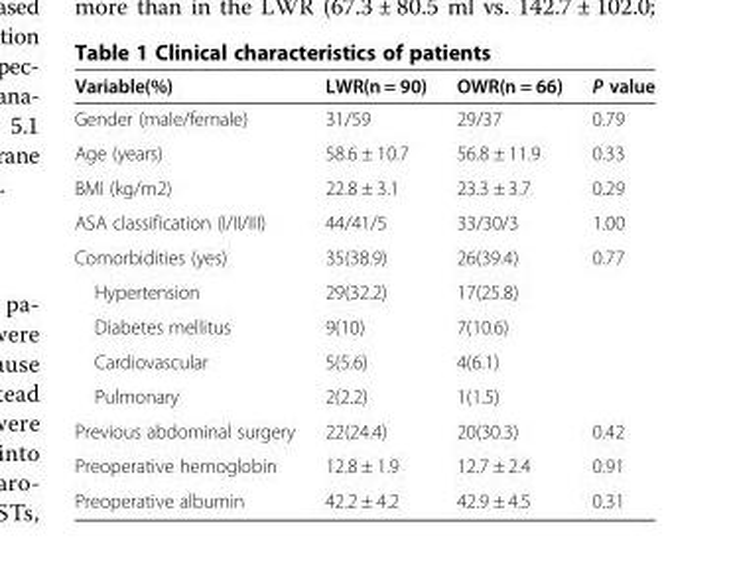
<table><thead><tr><td>Variable(%)</td><td>LWR(n = 90)</td><td>OWR(n = 66)</td><td>P value</td></tr></thead><tbody><tr><td>Gender (male/female)</td><td>31/59</td><td>29/37</td><td>0.79</td></tr><tr><td>Age (years)</td><td>58.6 ± 10.7</td><td>56.8 ± 11.9</td><td>0.33</td></tr><tr><td>BMI (kg/m2)</td><td>22.8 ± 3.1</td><td>23.3 ± 3.7</td><td>0.29</td></tr><tr><td>ASA classification (I/II/III)</td><td>44/41/5</td><td>33/30/3</td><td>1.00</td></tr><tr><td>Comorbidities (yes)</td><td>35(38.9)</td><td>26(39.4)</td><td>0.77</td></tr><tr><td>Hypertension</td><td>29(32.2)</td><td>17(25.8)</td><td></td></tr><tr><td>Diabetes mellitus</td><td>9(10)</td><td>7(10.6)</td><td></td></tr><tr><td>Cardiovascular</td><td>5(5.6)</td><td>4(6.1)</td><td></td></tr><tr><td>Pulmonary</td><td>2(2.2)</td><td>1(1.5)</td><td></td></tr><tr><td>Previous abdominal surgery</td><td>22(24.4)</td><td>20(30.3)</td><td>0.42</td></tr><tr><td>Preoperative hemoglobin</td><td>12.8 ± 1.9</td><td>12.7 ± 2.4</td><td>0.91</td></tr><tr><td>Preoperative albumin</td><td>42.2 ± 4.2</td><td>42.9 ± 4.5</td><td>0.31</td></tr></tbody></table>